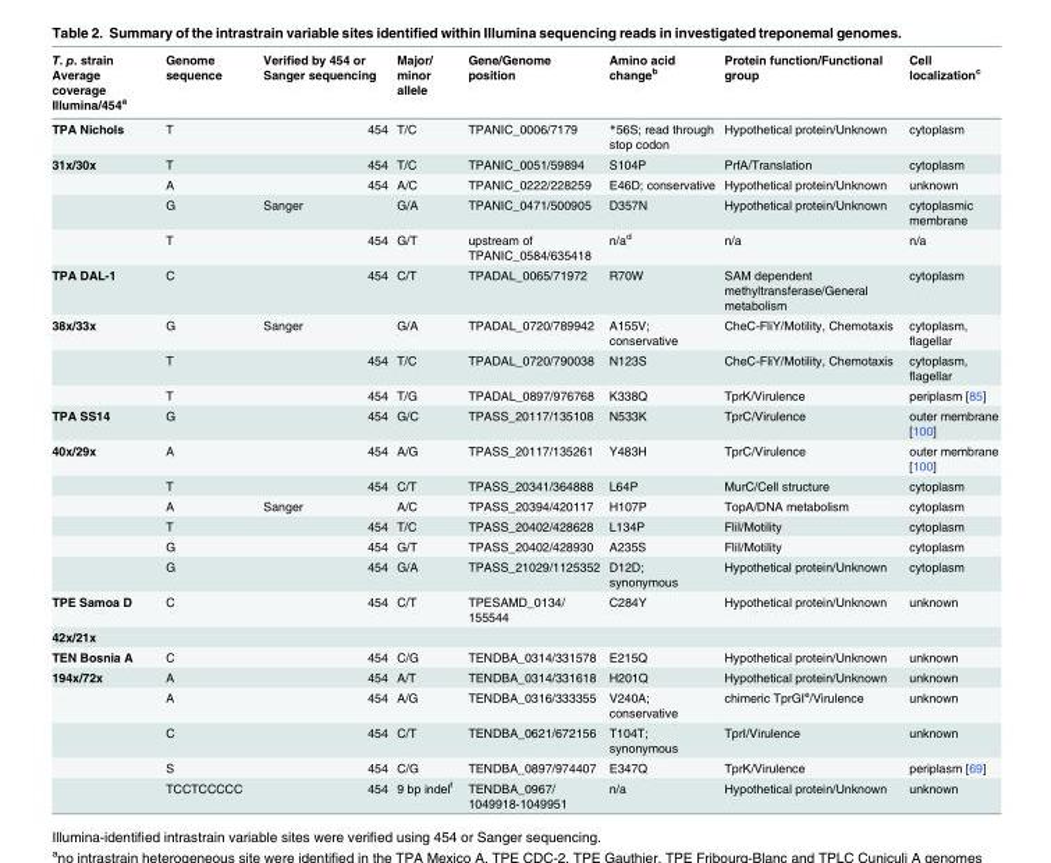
<table><thead><tr><td>T. p. strain Average coverage Illumina/454<sup>a</sup></td><td>Genome sequence</td><td>Verified by 454 or Sanger sequencing</td><td>Major/ minor allele</td><td>Gene/Genome position</td><td>Amino acid change<sup>b</sup></td><td>Protein function/Functional group</td><td>Cell localization<sup>c</sup></td></tr></thead><tbody><tr><td>TPA Nichols</td><td>T</td><td>454</td><td>T/C</td><td>TPANIC_0006/7179</td><td>*56S; read through stop codon</td><td>Hypothetical protein/Unknown</td><td>cytoplasm</td></tr><tr><td rowspan="4">31x/30x</td><td>T</td><td>454</td><td>T/C</td><td>TPANIC_0051/59894</td><td>S104P</td><td>PrfA/Translation</td><td>cytoplasm</td></tr><tr><td>A</td><td>454</td><td>A/C</td><td>TPANIC_0222/228259</td><td>E46D; conservative</td><td>Hypothetical protein/Unknown</td><td>unknown</td></tr><tr><td>G</td><td>Sanger</td><td>G/A</td><td>TPANIC_0471/500905</td><td>D357N</td><td>Hypothetical protein/Unknown</td><td>cytoplasmic membrane</td></tr><tr><td>T</td><td>454</td><td>G/T</td><td>upstream of TPANIC_0584/635418</td><td>n/a<sup>d</sup></td><td>n/a</td><td>n/a</td></tr><tr><td>TPA DAL-1</td><td>C</td><td>454</td><td>C/T</td><td>TPADAL_0065/71972</td><td>R70W</td><td>SAM dependent methyltransferase/General metabolism</td><td>cytoplasm</td></tr><tr><td rowspan="3">38x/33x</td><td>G</td><td>Sanger</td><td>G/A</td><td>TPADAL_0720/789942</td><td>A155V; conservative</td><td>CheC-FliY/Motility, Chemotaxis</td><td>cytoplasm, flagellar</td></tr><tr><td>T</td><td>454</td><td>T/C</td><td>TPADAL_0720/790038</td><td>N123S</td><td>CheC-FliY/Motility, Chemotaxis</td><td>cytoplasm, flagellar</td></tr><tr><td>T</td><td>454</td><td>T/G</td><td>TPADAL_0897/976768</td><td>K338Q</td><td>TprK/Virulence</td><td>periplasm [85]</td></tr><tr><td>TPA SS14</td><td>G</td><td>454</td><td>G/C</td><td>TPASS_20117/135108</td><td>N533K</td><td>TprC/Virulence</td><td>outer membrane [100]</td></tr><tr><td rowspan="6">40x/29x</td><td>A</td><td>454</td><td>A/G</td><td>TPASS_20117/135261</td><td>Y483H</td><td>TprC/Virulence</td><td>outer membrane [100]</td></tr><tr><td>T</td><td>454</td><td>C/T</td><td>TPASS_20341/364888</td><td>L64P</td><td>MurC/Cell structure</td><td>cytoplasm</td></tr><tr><td>A</td><td>Sanger</td><td>A/C</td><td>TPASS_20394/420117</td><td>H107P</td><td>TopA/DNA metabolism</td><td>cytoplasm</td></tr><tr><td>T</td><td>454</td><td>T/C</td><td>TPASS_20402/428628</td><td>L134P</td><td>FliI/Motility</td><td>cytoplasm</td></tr><tr><td>G</td><td>454</td><td>G/T</td><td>TPASS_20402/428930</td><td>A235S</td><td>FliI/Motility</td><td>cytoplasm</td></tr><tr><td>G</td><td>454</td><td>G/A</td><td>TPASS_21029/1125352</td><td>D12D; synonymous</td><td>Hypothetical protein/Unknown</td><td>cytoplasm</td></tr><tr><td>TPE Samoa D</td><td>C</td><td>454</td><td>C/T</td><td>TPESAMD_0134/ 155544</td><td>C284Y</td><td>Hypothetical protein/Unknown</td><td>unknown</td></tr><tr><td colspan="8">42x/21x</td></tr><tr><td>TEN Bosnia A</td><td>C</td><td>454</td><td>C/G</td><td>TENDBA_0314/331578</td><td>E215Q</td><td>Hypothetical protein/Unknown</td><td>unknown</td></tr><tr><td rowspan="5">194x/72x</td><td>A</td><td>454</td><td>A/T</td><td>TENDBA_0314/331618</td><td>H201Q</td><td>Hypothetical protein/Unknown</td><td>unknown</td></tr><tr><td>A</td><td>454</td><td>A/G</td><td>TENDBA_0316/333355</td><td>V240A; conservative</td><td>chimeric TprGI<sup>e</sup>/Virulence</td><td>unknown</td></tr><tr><td>C</td><td>454</td><td>C/T</td><td>TENDBA_0621/672156</td><td>T104T; synonymous</td><td>TprI/Virulence</td><td>unknown</td></tr><tr><td>S</td><td>454</td><td>C/G</td><td>TENDBA_0897/974407</td><td>E347Q</td><td>TprK/Virulence</td><td>periplasm [69]</td></tr><tr><td>TCCTCCCCC</td><td>454</td><td>9 bp indel<sup>f</sup></td><td>TENDBA_0967/ 1049918-1049951</td><td>n/a</td><td>Hypothetical protein/Unknown</td><td>unknown</td></tr></tbody></table>